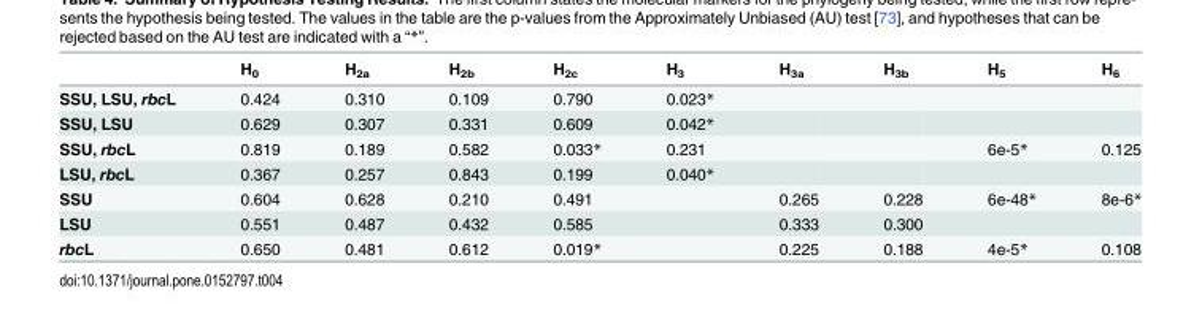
<table><thead><tr><td></td><td>H<sub>0</sub></td><td>H<sub>2a</sub></td><td>H<sub>2b</sub></td><td>H<sub>2c</sub></td><td>H<sub>3</sub></td><td>H<sub>3a</sub></td><td>H<sub>3b</sub></td><td>H<sub>5</sub></td><td>H<sub>6</sub></td></tr></thead><tbody><tr><td>SSU, LSU, rbcL</td><td>0.424</td><td>0.310</td><td>0.109</td><td>0.790</td><td>0.023*</td><td></td><td></td><td></td><td></td></tr><tr><td>SSU, LSU</td><td>0.629</td><td>0.307</td><td>0.331</td><td>0.609</td><td>0.042*</td><td></td><td></td><td></td><td></td></tr><tr><td>SSU, rbcL</td><td>0.819</td><td>0.189</td><td>0.582</td><td>0.033*</td><td>0.231</td><td></td><td></td><td>6e-5*</td><td>0.125</td></tr><tr><td>LSU, rbcL</td><td>0.367</td><td>0.257</td><td>0.843</td><td>0.199</td><td>0.040*</td><td></td><td></td><td></td><td></td></tr><tr><td>SSU</td><td>0.604</td><td>0.628</td><td>0.210</td><td>0.491</td><td></td><td>0.265</td><td>0.228</td><td>6e-48*</td><td>8e-6*</td></tr><tr><td>LSU</td><td>0.551</td><td>0.487</td><td>0.432</td><td>0.585</td><td></td><td>0.333</td><td>0.300</td><td></td><td></td></tr><tr><td>rbcL</td><td>0.650</td><td>0.481</td><td>0.612</td><td>0.019*</td><td></td><td>0.225</td><td>0.188</td><td>4e-5*</td><td>0.108</td></tr></tbody></table>